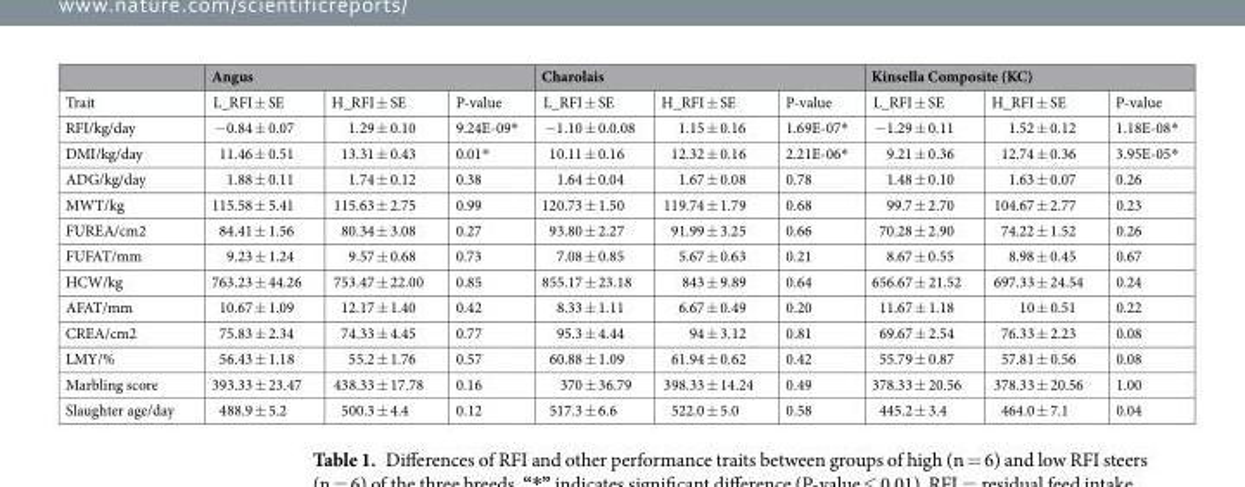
<table><thead><tr><td rowspan="2">Trait</td><td colspan="3">Angus</td><td colspan="3">Charolais</td><td colspan="3">Kinsella Composite (KC)</td></tr><tr><td>L_RFI ± SE</td><td>H_RFI ± SE</td><td>P-value</td><td>L_RFI ± SE</td><td>H_RFI ± SE</td><td>P-value</td><td>L_RFI ± SE</td><td>H_RFI ± SE</td><td>P-value</td></tr></thead><tbody><tr><td>RFI/kg/day</td><td>−0.84 ± 0.07</td><td>1.29 ± 0.10</td><td>9.24E-09*</td><td>−1.10 ± 0.0.08</td><td>1.15 ± 0.16</td><td>1.69E-07*</td><td>−1.29 ± 0.11</td><td>1.52 ± 0.12</td><td>1.18E-08*</td></tr><tr><td>DMI/kg/day</td><td>11.46 ± 0.51</td><td>13.31 ± 0.43</td><td>0.01*</td><td>10.11 ± 0.16</td><td>12.32 ± 0.16</td><td>2.21E-06*</td><td>9.21 ± 0.36</td><td>12.74 ± 0.36</td><td>3.95E-05*</td></tr><tr><td>ADG/kg/day</td><td>1.88 ± 0.11</td><td>1.74 ± 0.12</td><td>0.38</td><td>1.64 ± 0.04</td><td>1.67 ± 0.08</td><td>0.78</td><td>1.48 ± 0.10</td><td>1.63 ± 0.07</td><td>0.26</td></tr><tr><td>MWT/kg</td><td>115.58 ± 5.41</td><td>115.63 ± 2.75</td><td>0.99</td><td>120.73 ± 1.50</td><td>119.74 ± 1.79</td><td>0.68</td><td>99.7 ± 2.70</td><td>104.67 ± 2.77</td><td>0.23</td></tr><tr><td>FUREA/cm2</td><td>84.41 ± 1.56</td><td>80.34 ± 3.08</td><td>0.27</td><td>93.80 ± 2.27</td><td>91.99 ± 3.25</td><td>0.66</td><td>70.28 ± 2.90</td><td>74.22 ± 1.52</td><td>0.26</td></tr><tr><td>FUFAT/mm</td><td>9.23 ± 1.24</td><td>9.57 ± 0.68</td><td>0.73</td><td>7.08 ± 0.85</td><td>5.67 ± 0.63</td><td>0.21</td><td>8.67 ± 0.55</td><td>8.98 ± 0.45</td><td>0.67</td></tr><tr><td>HCW/kg</td><td>763.23 ± 44.26</td><td>753.47 ± 22.00</td><td>0.85</td><td>855.17 ± 23.18</td><td>843 ± 9.89</td><td>0.64</td><td>656.67 ± 21.52</td><td>697.33 ± 24.54</td><td>0.24</td></tr><tr><td>AFAT/mm</td><td>10.67 ± 1.09</td><td>12.17 ± 1.40</td><td>0.42</td><td>8.33 ± 1.11</td><td>6.67 ± 0.49</td><td>0.20</td><td>11.67 ± 1.18</td><td>10 ± 0.51</td><td>0.22</td></tr><tr><td>CREA/cm2</td><td>75.83 ± 2.34</td><td>74.33 ± 4.45</td><td>0.77</td><td>95.3 ± 4.44</td><td>94 ± 3.12</td><td>0.81</td><td>69.67 ± 2.54</td><td>76.33 ± 2.23</td><td>0.08</td></tr><tr><td>LMY/%</td><td>56.43 ± 1.18</td><td>55.2 ± 1.76</td><td>0.57</td><td>60.88 ± 1.09</td><td>61.94 ± 0.62</td><td>0.42</td><td>55.79 ± 0.87</td><td>57.81 ± 0.56</td><td>0.08</td></tr><tr><td>Marbling score</td><td>393.33 ± 23.47</td><td>438.33 ± 17.78</td><td>0.16</td><td>370 ± 36.79</td><td>398.33 ± 14.24</td><td>0.49</td><td>378.33 ± 20.56</td><td>378.33 ± 20.56</td><td>1.00</td></tr><tr><td>Slaughter age/day</td><td>488.9 ± 5.2</td><td>500.3 ± 4.4</td><td>0.12</td><td>517.3 ± 6.6</td><td>522.0 ± 5.0</td><td>0.58</td><td>445.2 ± 3.4</td><td>464.0 ± 7.1</td><td>0.04</td></tr></tbody></table>